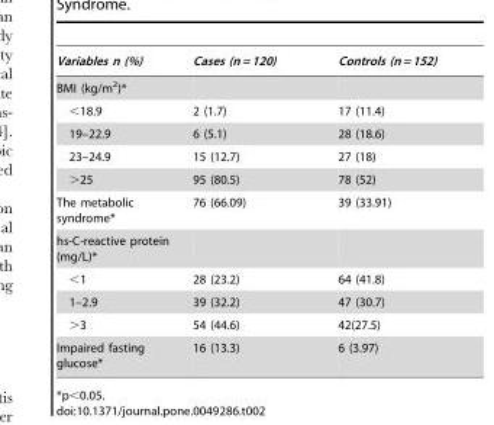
<table><thead><tr><td>Variables n (%)</td><td>Cases (n = 120)</td><td>Controls (n = 152)</td></tr></thead><tbody><tr><td colspan="3">BMI (kg/m<sup>2</sup>)*</td></tr><tr><td>&lt;18.9</td><td>2 (1.7)</td><td>17 (11.4)</td></tr><tr><td>19–22.9</td><td>6 (5.1)</td><td>28 (18.6)</td></tr><tr><td>23–24.9</td><td>15 (12.7)</td><td>27 (18)</td></tr><tr><td>&gt;25</td><td>95 (80.5)</td><td>78 (52)</td></tr><tr><td>The metabolic syndrome*</td><td>76 (66.09)</td><td>39 (33.91)</td></tr><tr><td colspan="3">hs-C-reactive protein (mg/L)*</td></tr><tr><td>&lt;1</td><td>28 (23.2)</td><td>64 (41.8)</td></tr><tr><td>1–2.9</td><td>39 (32.2)</td><td>47 (30.7)</td></tr><tr><td>&gt;3</td><td>54 (44.6)</td><td>42(27.5)</td></tr><tr><td>Impaired fasting glucose*</td><td>16 (13.3)</td><td>6 (3.97)</td></tr></tbody></table>